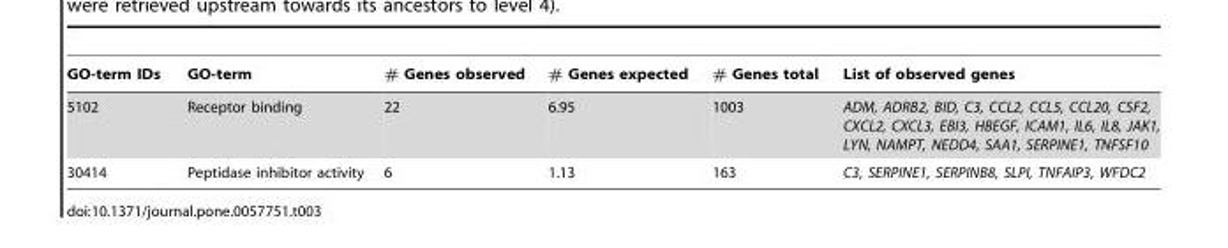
<table><thead><tr><td>GO-term IDs</td><td>GO-term</td><td># Genes observed</td><td># Genes expected</td><td># Genes total</td><td>List of observed genes</td></tr></thead><tbody><tr><td>5102</td><td>Receptor binding</td><td>22</td><td>6.95</td><td>1003</td><td>ADM, ADRB2, BID, C3, CCL2, CCL5, CCL20, CSF2, CXCL2, CXCL3, EBI3, HBEGF, ICAM1, IL6, IL8, JAK1, LYN, NAMPT, NEDD4, SAA1, SERPINE1, TNFSF10</td></tr><tr><td>30414</td><td>Peptidase inhibitor activity</td><td>6</td><td>1.13</td><td>163</td><td>C3, SERPINE1, SERPINB8, SLPI, TNFAIP3, WFDC2</td></tr></tbody></table>